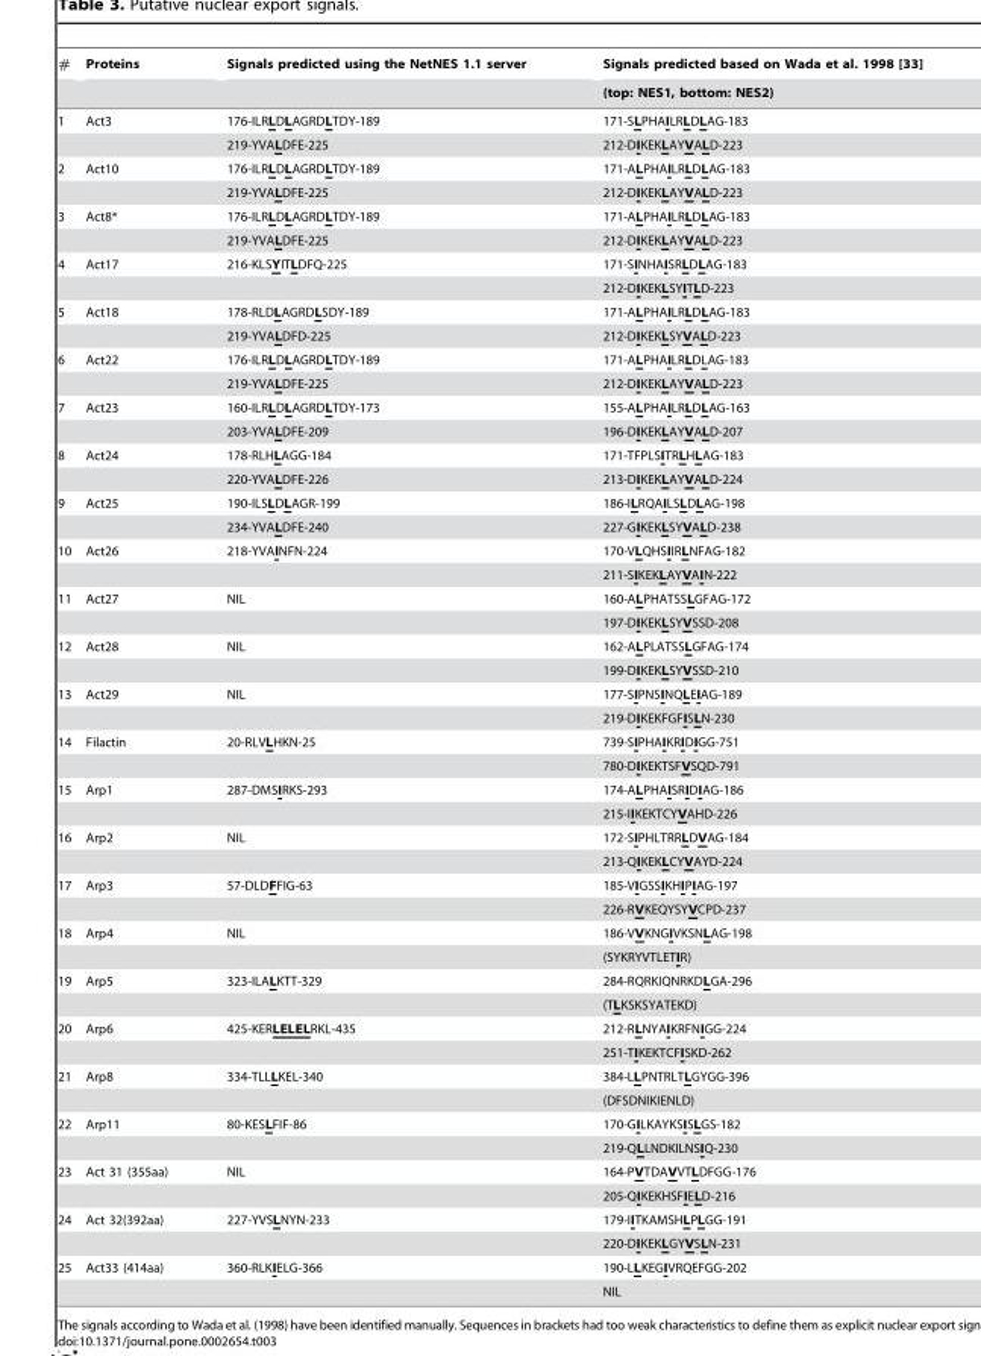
<table><thead><tr><td rowspan="2">#</td><td rowspan="2">Proteins</td><td rowspan="2">Signals predicted using the NetNES 1.1 server</td><td rowspan="2">Signals predicted based on Wada et al. 1998 [33] (top: NES1, bottom: NES2)</td></tr><tr></tr></thead><tbody><tr><td rowspan="2">1</td><td>Act3</td><td>176-ILRLDLAGRDLTDY-189</td><td>171-SLPHAILRLDLAG-183</td></tr><tr><td></td><td>219-YVALDFE-225</td><td>212-DIKEKLAYVALD-223</td></tr><tr><td rowspan="2">2</td><td>Act10</td><td>176-ILRLDLAGRDLTDY-189</td><td>171-ALPHAILRLDLAG-183</td></tr><tr><td></td><td>219-YVALDFE-225</td><td>212-DIKEKLAYVALD-223</td></tr><tr><td rowspan="2">3</td><td>Act8*</td><td>176-ILRLDLAGRDLTDY-189</td><td>171-ALPHAILRLDLAG-183</td></tr><tr><td></td><td>219-YVALDFE-225</td><td>212-DIKEKLAYVALD-223</td></tr><tr><td rowspan="2">4</td><td>Act17</td><td>216-KLSYITLDFQ-225</td><td>171-SINHAISRLDLAG-183</td></tr><tr><td></td><td></td><td>212-DIKEKLSYITLD-223</td></tr><tr><td rowspan="2">5</td><td>Act18</td><td>178-RLDLAGRDLSDY-189</td><td>171-ALPHAILRLDLAG-183</td></tr><tr><td></td><td>219-YVALDFD-225</td><td>212-DIKEKLSYVALD-223</td></tr><tr><td rowspan="2">6</td><td>Act22</td><td>176-ILRLDLAGRDLTDY-189</td><td>171-ALPHAILRLDLAG-183</td></tr><tr><td></td><td>219-YVALDFE-225</td><td>212-DIKEKLAYVALD-223</td></tr><tr><td rowspan="2">7</td><td>Act23</td><td>160-ILRLDLAGRDLTDY-173</td><td>155-ALPHAILRLDLAG-163</td></tr><tr><td></td><td>203-YVALDFE-209</td><td>196-DIKEKLAYVALD-207</td></tr><tr><td rowspan="2">8</td><td>Act24</td><td>178-RLHLAGG-184</td><td>171-TFPLSITRLHLAG-183</td></tr><tr><td></td><td>220-YVALDFE-226</td><td>213-DIKEKLAYVALD-224</td></tr><tr><td rowspan="2">9</td><td>Act25</td><td>190-ILSLDLAGR-199</td><td>186-ILRQAILSLDLAG-198</td></tr><tr><td></td><td>234-YVALDFE-240</td><td>227-GIKEKLSYVALD-238</td></tr><tr><td rowspan="2">10</td><td>Act26</td><td>218-YVAINFN-224</td><td>170-VLQHSIIRLNFAG-182</td></tr><tr><td></td><td></td><td>211-SIKEKLAYVAIN-222</td></tr><tr><td rowspan="2">11</td><td>Act27</td><td>NIL</td><td>160-ALPHATSSLGFAG-172</td></tr><tr><td></td><td></td><td>197-DIKEKLSYVSSD-208</td></tr><tr><td rowspan="2">12</td><td>Act28</td><td>NIL</td><td>162-ALPLATSSLGFAG-174</td></tr><tr><td></td><td></td><td>199-DIKEKLSYVSSD-210</td></tr><tr><td rowspan="2">13</td><td>Act29</td><td>NIL</td><td>177-SIPNSINQLEIAG-189</td></tr><tr><td></td><td></td><td>219-DIKEKFGFISLN-230</td></tr><tr><td rowspan="2">14</td><td>Filactin</td><td>20-RLVLHKN-25</td><td>739-SIPHAIKRIDIGG-751</td></tr><tr><td></td><td></td><td>780-DIKEKTSFVSQD-791</td></tr><tr><td rowspan="2">15</td><td>Arp1</td><td>287-DMSIRKS-293</td><td>174-ALPHAISRIDIAG-186</td></tr><tr><td></td><td></td><td>215-IIKEKTCYVAHD-226</td></tr><tr><td rowspan="2">16</td><td>Arp2</td><td>NIL</td><td>172-SIPHLTRRLDVAG-184</td></tr><tr><td></td><td></td><td>213-QIKEKLCYVAYD-224</td></tr><tr><td rowspan="2">17</td><td>Arp3</td><td>57-DLDFFIG-63</td><td>185-VIGSSIKHIPIAG-197</td></tr><tr><td></td><td></td><td>226-RVKEQYSYVCPD-237</td></tr><tr><td rowspan="2">18</td><td>Arp4</td><td>NIL</td><td>186-VVKNGIVKSNLAG-198</td></tr><tr><td></td><td></td><td>(SYKRYVTLETIR)</td></tr><tr><td rowspan="2">19</td><td>Arp5</td><td>323-ILALKTT-329</td><td>284-RQRKIQNRKDLGA-296</td></tr><tr><td></td><td></td><td>(TLKSKSYATEKD)</td></tr><tr><td rowspan="2">20</td><td>Arp6</td><td>425-KERLELELRKL-435</td><td>212-RLNYAIKRFNIGG-224</td></tr><tr><td></td><td></td><td>251-TIKEKTCFISKD-262</td></tr><tr><td rowspan="2">21</td><td>Arp8</td><td>334-TLLLKEL-340</td><td>384-LLPNTRLTLGYGG-396</td></tr><tr><td></td><td></td><td>(DFSDNIKIENLD)</td></tr><tr><td rowspan="2">22</td><td>Arp11</td><td>80-KESLFIF-86</td><td>170-GILKAYKSISLGS-182</td></tr><tr><td></td><td></td><td>219-QLLNDKILNSIQ-230</td></tr><tr><td rowspan="2">23</td><td>Act 31 (355aa)</td><td>NIL</td><td>164-PVTDAVVTLDFGG-176</td></tr><tr><td></td><td></td><td>205-QIKEKHSFIELD-216</td></tr><tr><td rowspan="2">24</td><td>Act 32(392aa)</td><td>227-YVSLNYN-233</td><td>179-IITKAMSHLPLGG-191</td></tr><tr><td></td><td></td><td>220-DIKEKLGYVSLN-231</td></tr><tr><td rowspan="2">25</td><td>Act33 (414aa)</td><td>360-RLKIELG-366</td><td>190-LLKEGIVRQEFGG-202</td></tr><tr><td></td><td></td><td>NIL</td></tr></tbody></table>